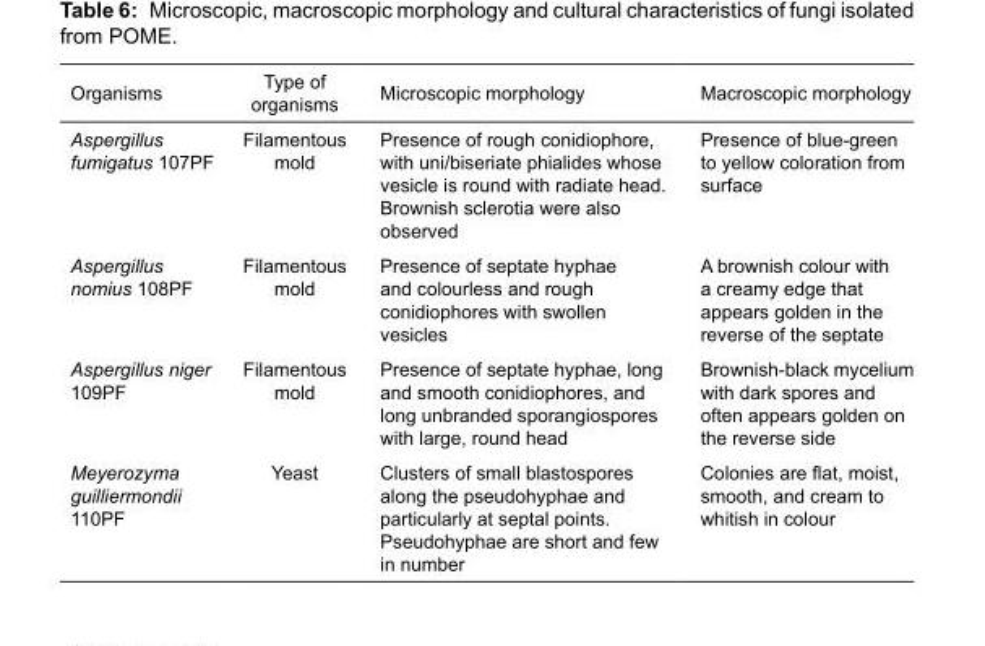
<table><thead><tr><td>Organisms</td><td>Type of organisms</td><td>Microscopic morphology</td><td>Macroscopic morphology</td></tr></thead><tbody><tr><td>Aspergillus fumigatus 107PF</td><td>Filamentous mold</td><td>Presence of rough conidiophore, with uni/biseriate phialides whose vesicle is round with radiate head. Brownish sclerotia were also observed</td><td>Presence of blue-green to yellow coloration from surface</td></tr><tr><td>Aspergillus nomius 108PF</td><td>Filamentous mold</td><td>Presence of septate hyphae and colourless and rough conidiophores with swollen vesicles</td><td>A brownish colour with a creamy edge that appears golden in the reverse of the septate</td></tr><tr><td>Aspergillus niger 109PF</td><td>Filamentous mold</td><td>Presence of septate hyphae, long and smooth conidiophores, and long unbranded sporangiospores with large, round head</td><td>Brownish-black mycelium with dark spores and often appears golden on the reverse side</td></tr><tr><td>Meyerozyma guilliermondii 110PF</td><td>Yeast</td><td>Clusters of small blastospores along the pseudohyphae and particularly at septal points. Pseudohyphae are short and few in number</td><td>Colonies are flat, moist, smooth, and cream to whitish in colour</td></tr></tbody></table>